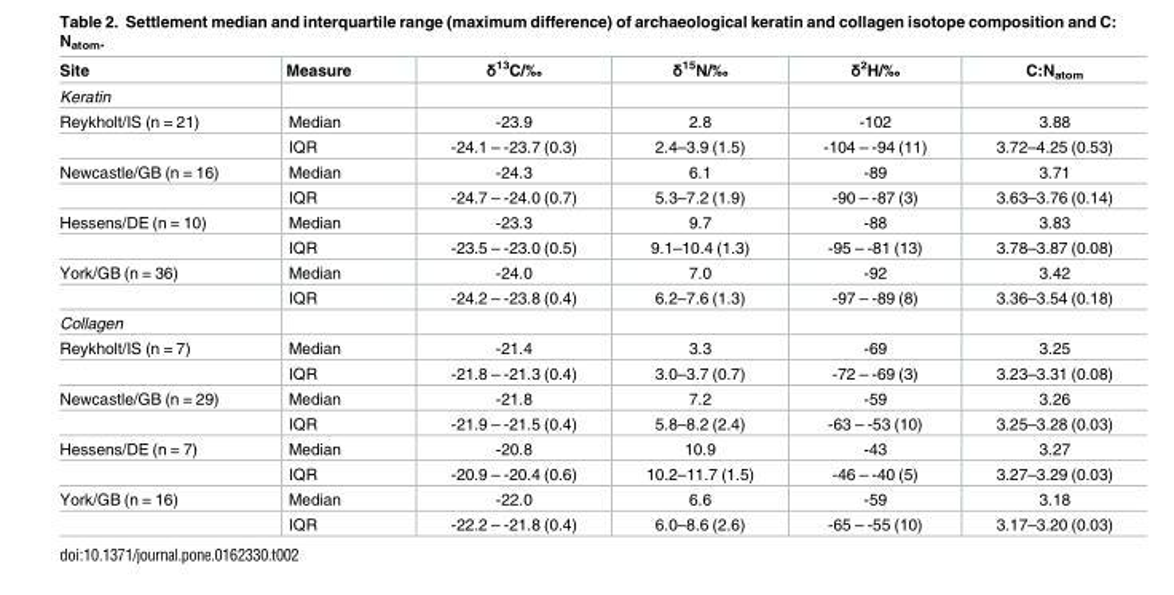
<table><thead><tr><td>Site</td><td>Measure</td><td>δ<sup>13</sup>C/‰</td><td>δ<sup>15</sup>N/‰</td><td>δ<sup>2</sup>H/‰</td><td>C:N<sub>atom</sub></td></tr></thead><tbody><tr><td colspan="6">Keratin</td></tr><tr><td rowspan="2">Reykholt/IS (n = 21)</td><td>Median</td><td>-23.9</td><td>2.8</td><td>-102</td><td>3.88</td></tr><tr><td>IQR</td><td>-24.1 – -23.7 (0.3)</td><td>2.4–3.9 (1.5)</td><td>-104 – -94 (11)</td><td>3.72–4.25 (0.53)</td></tr><tr><td rowspan="2">Newcastle/GB (n = 16)</td><td>Median</td><td>-24.3</td><td>6.1</td><td>-89</td><td>3.71</td></tr><tr><td>IQR</td><td>-24.7 – -24.0 (0.7)</td><td>5.3–7.2 (1.9)</td><td>-90 – -87 (3)</td><td>3.63–3.76 (0.14)</td></tr><tr><td rowspan="2">Hessens/DE (n = 10)</td><td>Median</td><td>-23.3</td><td>9.7</td><td>-88</td><td>3.83</td></tr><tr><td>IQR</td><td>-23.5 – -23.0 (0.5)</td><td>9.1–10.4 (1.3)</td><td>-95 – -81 (13)</td><td>3.78–3.87 (0.08)</td></tr><tr><td rowspan="2">York/GB (n = 36)</td><td>Median</td><td>-24.0</td><td>7.0</td><td>-92</td><td>3.42</td></tr><tr><td>IQR</td><td>-24.2 – -23.8 (0.4)</td><td>6.2–7.6 (1.3)</td><td>-97 – -89 (8)</td><td>3.36–3.54 (0.18)</td></tr><tr><td colspan="6">Collagen</td></tr><tr><td rowspan="2">Reykholt/IS (n = 7)</td><td>Median</td><td>-21.4</td><td>3.3</td><td>-69</td><td>3.25</td></tr><tr><td>IQR</td><td>-21.8 – -21.3 (0.4)</td><td>3.0–3.7 (0.7)</td><td>-72 – -69 (3)</td><td>3.23–3.31 (0.08)</td></tr><tr><td rowspan="2">Newcastle/GB (n = 29)</td><td>Median</td><td>-21.8</td><td>7.2</td><td>-59</td><td>3.26</td></tr><tr><td>IQR</td><td>-21.9 – -21.5 (0.4)</td><td>5.8–8.2 (2.4)</td><td>-63 – -53 (10)</td><td>3.25–3.28 (0.03)</td></tr><tr><td rowspan="2">Hessens/DE (n = 7)</td><td>Median</td><td>-20.8</td><td>10.9</td><td>-43</td><td>3.27</td></tr><tr><td>IQR</td><td>-20.9 – -20.4 (0.6)</td><td>10.2–11.7 (1.5)</td><td>-46 – -40 (5)</td><td>3.27–3.29 (0.03)</td></tr><tr><td rowspan="2">York/GB (n = 16)</td><td>Median</td><td>-22.0</td><td>6.6</td><td>-59</td><td>3.18</td></tr><tr><td>IQR</td><td>-22.2 – -21.8 (0.4)</td><td>6.0–8.6 (2.6)</td><td>-65 – -55 (10)</td><td>3.17–3.20 (0.03)</td></tr></tbody></table>